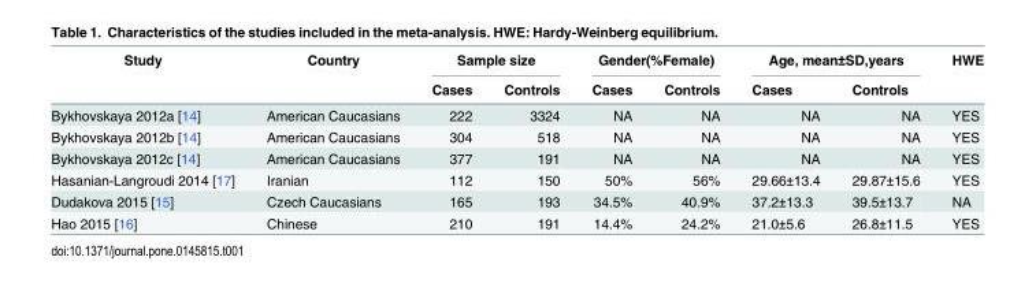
<table><thead><tr><td rowspan="2">Study</td><td rowspan="2">Country</td><td colspan="2">Sample size</td><td colspan="2">Gender(%Female)</td><td colspan="2">Age, mean±SD,years</td><td rowspan="2">HWE</td></tr><tr><td>Cases</td><td>Controls</td><td>Cases</td><td>Controls</td><td>Cases</td><td>Controls</td></tr></thead><tbody><tr><td>Bykhovskaya 2012a [14]</td><td>American Caucasians</td><td>222</td><td>3324</td><td>NA</td><td>NA</td><td>NA</td><td>NA</td><td>YES</td></tr><tr><td>Bykhovskaya 2012b [14]</td><td>American Caucasians</td><td>304</td><td>518</td><td>NA</td><td>NA</td><td>NA</td><td>NA</td><td>YES</td></tr><tr><td>Bykhovskaya 2012c [14]</td><td>American Caucasians</td><td>377</td><td>191</td><td>NA</td><td>NA</td><td>NA</td><td>NA</td><td>YES</td></tr><tr><td>Hasanian-Langroudi 2014 [17]</td><td>Iranian</td><td>112</td><td>150</td><td>50%</td><td>56%</td><td>29.66±13.4</td><td>29.87±15.6</td><td>YES</td></tr><tr><td>Dudakova 2015 [15]</td><td>Czech Caucasians</td><td>165</td><td>193</td><td>34.5%</td><td>40.9%</td><td>37.2±13.3</td><td>39.5±13.7</td><td>NA</td></tr><tr><td>Hao 2015 [16]</td><td>Chinese</td><td>210</td><td>191</td><td>14.4%</td><td>24.2%</td><td>21.0±5.6</td><td>26.8±11.5</td><td>YES</td></tr></tbody></table>